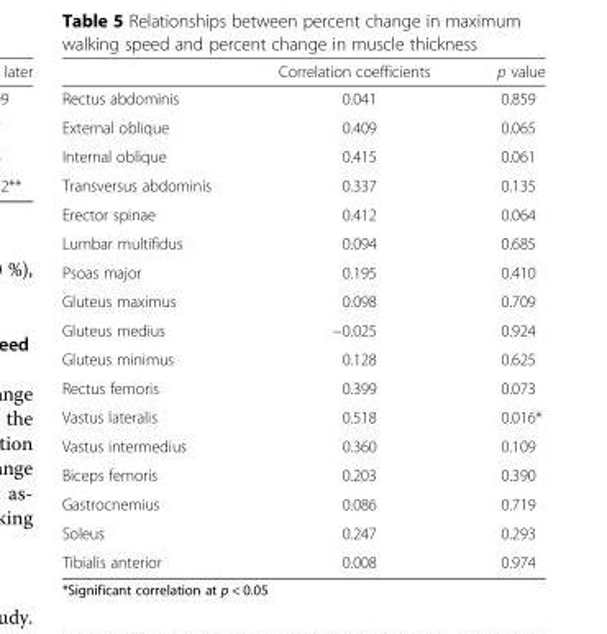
<table><thead><tr><td></td><td>Correlation coefficients</td><td>p value</td></tr></thead><tbody><tr><td>Rectus abdominis</td><td>0.041</td><td>0.859</td></tr><tr><td>External oblique</td><td>0.409</td><td>0.065</td></tr><tr><td>Internal oblique</td><td>0.415</td><td>0.061</td></tr><tr><td>Transversus abdominis</td><td>0.337</td><td>0.135</td></tr><tr><td>Erector spinae</td><td>0.412</td><td>0.064</td></tr><tr><td>Lumbar multifidus</td><td>0.094</td><td>0.685</td></tr><tr><td>Psoas major</td><td>0.195</td><td>0.410</td></tr><tr><td>Gluteus maximus</td><td>0.098</td><td>0.709</td></tr><tr><td>Gluteus medius</td><td>−0.025</td><td>0.924</td></tr><tr><td>Gluteus minimus</td><td>0.128</td><td>0.625</td></tr><tr><td>Rectus femoris</td><td>0.399</td><td>0.073</td></tr><tr><td>Vastus lateralis</td><td>0.518</td><td>0.016*</td></tr><tr><td>Vastus intermedius</td><td>0.360</td><td>0.109</td></tr><tr><td>Biceps femoris</td><td>0.203</td><td>0.390</td></tr><tr><td>Gastrocnemius</td><td>0.086</td><td>0.719</td></tr><tr><td>Soleus</td><td>0.247</td><td>0.293</td></tr><tr><td>Tibialis anterior</td><td>0.008</td><td>0.974</td></tr></tbody></table>